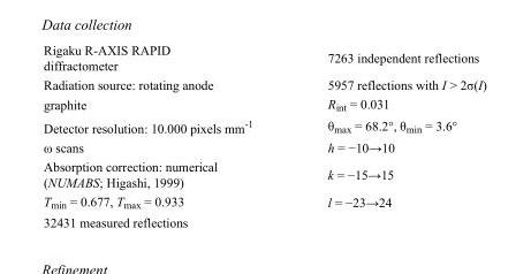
<table><tbody><tr><td>Rigaku R-AXIS RAPID diffractometer</td><td>7263 independent reflections</td></tr><tr><td>Radiation source: rotating anode</td><td>5957 reflections with I &gt; 2σ(I)</td></tr><tr><td>graphite</td><td>R<sub>int</sub> = 0.031</td></tr><tr><td>Detector resolution: 10.000 pixels mm<sup>-1</sup></td><td>θ<sub>max</sub> = 68.2°, θ<sub>min</sub> = 3.6°</td></tr><tr><td>ω scans</td><td>h = −10→10</td></tr><tr><td>Absorption correction: numerical (NUMABS; Higashi, 1999)</td><td>k = −15→15</td></tr><tr><td>T<sub>min</sub> = 0.677, T<sub>max</sub> = 0.933</td><td>l = −23→24</td></tr><tr><td>32431 measured reflections</td><td></td></tr></tbody></table>